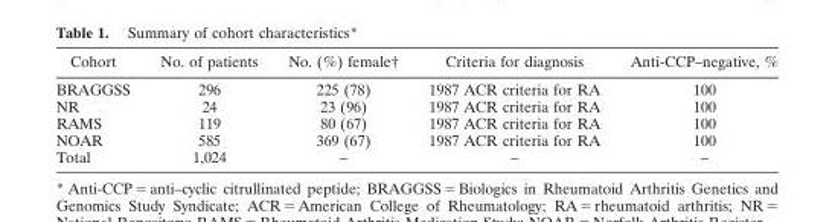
<table><thead><tr><td>Cohort</td><td>No. of patients</td><td>No. (%) female†</td><td>Criteria for diagnosis</td><td>Anti-CCP–negative, %</td></tr></thead><tbody><tr><td>BRAGGSS</td><td>296</td><td>225 (78)</td><td>1987 ACR criteria for RA</td><td>100</td></tr><tr><td>NR</td><td>24</td><td>23 (96)</td><td>1987 ACR criteria for RA</td><td>100</td></tr><tr><td>RAMS</td><td>119</td><td>80 (67)</td><td>1987 ACR criteria for RA</td><td>100</td></tr><tr><td>NOAR</td><td>585</td><td>369 (67)</td><td>1987 ACR criteria for RA</td><td>100</td></tr><tr><td>Total</td><td>1,024</td><td>–</td><td>–</td><td>–</td></tr></tbody></table>